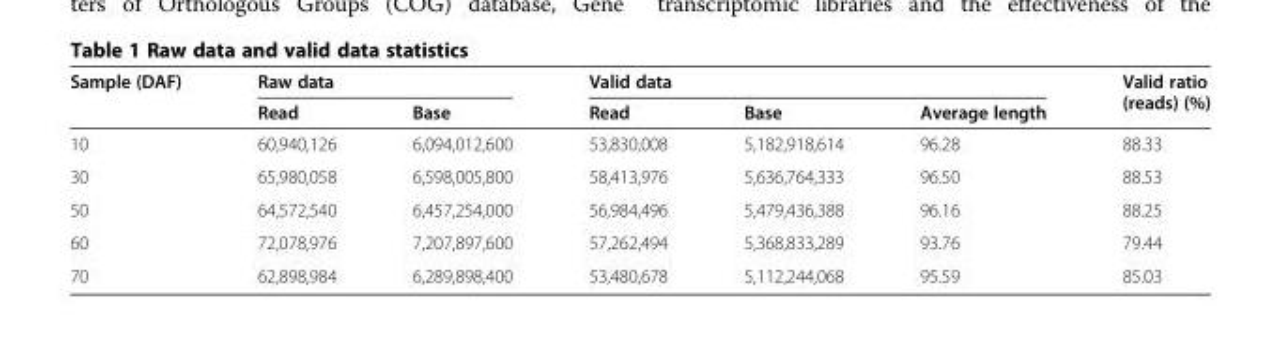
<table><thead><tr><td rowspan="2">Sample (DAF)</td><td colspan="2">Raw data</td><td colspan="3">Valid data</td><td rowspan="2">Valid ratio (reads) (%)</td></tr><tr><td>Read</td><td>Base</td><td>Read</td><td>Base</td><td>Average length</td></tr></thead><tbody><tr><td>10</td><td>60,940,126</td><td>6,094,012,600</td><td>53,830,008</td><td>5,182,918,614</td><td>96.28</td><td>88.33</td></tr><tr><td>30</td><td>65,980,058</td><td>6,598,005,800</td><td>58,413,976</td><td>5,636,764,333</td><td>96.50</td><td>88.53</td></tr><tr><td>50</td><td>64,572,540</td><td>6,457,254,000</td><td>56,984,496</td><td>5,479,436,388</td><td>96.16</td><td>88.25</td></tr><tr><td>60</td><td>72,078,976</td><td>7,207,897,600</td><td>57,262,494</td><td>5,368,833,289</td><td>93.76</td><td>79.44</td></tr><tr><td>70</td><td>62,898,984</td><td>6,289,898,400</td><td>53,480,678</td><td>5,112,244,068</td><td>95.59</td><td>85.03</td></tr></tbody></table>